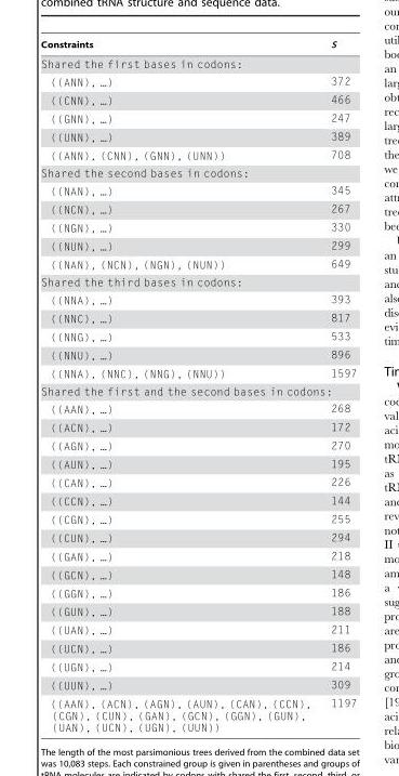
<table><thead><tr><td>Constraints</td><td>S</td></tr></thead><tbody><tr><td colspan="2">Shared the first bases in codons:</td></tr><tr><td>((ANN), …)</td><td>372</td></tr><tr><td>((CNN), …)</td><td>466</td></tr><tr><td>((GNN), …)</td><td>247</td></tr><tr><td>((UNN), …)</td><td>389</td></tr><tr><td>((ANN), (CNN), (GNN), (UNN))</td><td>708</td></tr><tr><td colspan="2">Shared the second bases in codons:</td></tr><tr><td>((NAN), …)</td><td>345</td></tr><tr><td>((NCN), …)</td><td>267</td></tr><tr><td>((NGN), …)</td><td>330</td></tr><tr><td>((NUN), …)</td><td>299</td></tr><tr><td>((NAN), (NCN), (NGN), (NUN))</td><td>649</td></tr><tr><td colspan="2">Shared the third bases in codons:</td></tr><tr><td>((NNA), …)</td><td>393</td></tr><tr><td>((NNC), …)</td><td>817</td></tr><tr><td>((NNG), …)</td><td>533</td></tr><tr><td>((NNU), …)</td><td>896</td></tr><tr><td>((NNA), (NNC), (NNG), (NNU))</td><td>1597</td></tr><tr><td colspan="2">Shared the first and the second bases in codons:</td></tr><tr><td>((AAN), …)</td><td>268</td></tr><tr><td>((ACN), …)</td><td>172</td></tr><tr><td>((AGN), …)</td><td>270</td></tr><tr><td>((AUN), …)</td><td>195</td></tr><tr><td>((CAN), …)</td><td>226</td></tr><tr><td>((CCN), …)</td><td>144</td></tr><tr><td>((CGN), …)</td><td>255</td></tr><tr><td>((CUN), …)</td><td>294</td></tr><tr><td>((GAN), …)</td><td>218</td></tr><tr><td>((GCN), …)</td><td>148</td></tr><tr><td>((GGN), …)</td><td>186</td></tr><tr><td>((GUN), …)</td><td>188</td></tr><tr><td>((UAN), …)</td><td>211</td></tr><tr><td>((UCN), …)</td><td>186</td></tr><tr><td>((UGN), …)</td><td>214</td></tr><tr><td>((UUN), …)</td><td>309</td></tr><tr><td>((AAN), (ACN), (AGN), (AUN), (CAN), (CCN), (CGN), (CUN), (GAN), (GCN), (GGN), (GUN), (UAN), (UCN), (UGN), (UUN))</td><td>1197</td></tr></tbody></table>